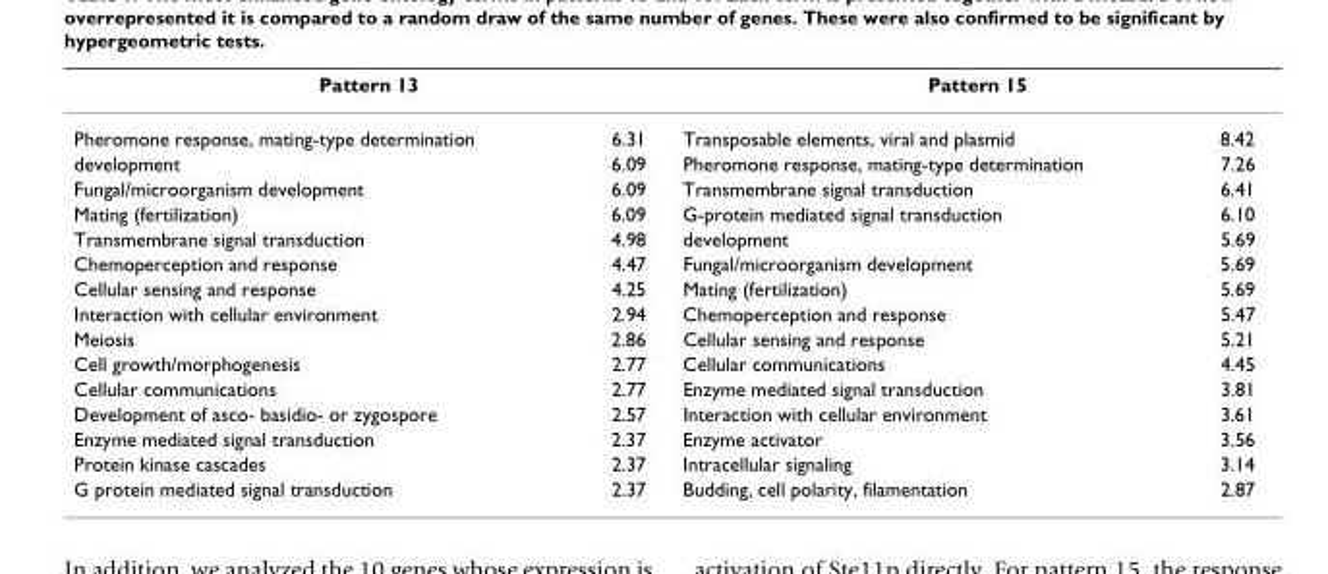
<table><thead><tr><td colspan="2">Pattern 13</td><td colspan="2">Pattern 15</td></tr><tr><td>Pheromone response, mating-type determination</td><td>6.31</td><td>Transposable elements, viral and plasmid</td><td>8.42</td></tr></thead><tbody><tr><td>development</td><td>6.09</td><td>Pheromone response, mating-type determination</td><td>7.26</td></tr><tr><td>Fungal/microorganism development</td><td>6.09</td><td>Transmembrane signal transduction</td><td>6.41</td></tr><tr><td>Mating (fertilization)</td><td>6.09</td><td>G-protein mediated signal transduction</td><td>6.10</td></tr><tr><td>Transmembrane signal transduction</td><td>4.98</td><td>development</td><td>5.69</td></tr><tr><td>Chemoperception and response</td><td>4.47</td><td>Fungal/microorganism development</td><td>5.69</td></tr><tr><td>Cellular sensing and response</td><td>4.25</td><td>Mating (fertilization)</td><td>5.69</td></tr><tr><td>Interaction with cellular environment</td><td>2.94</td><td>Chemoperception and response</td><td>5.47</td></tr><tr><td>Meiosis</td><td>2.86</td><td>Cellular sensing and response</td><td>5.21</td></tr><tr><td>Cell growth/morphogenesis</td><td>2.77</td><td>Cellular communications</td><td>4.45</td></tr><tr><td>Cellular communications</td><td>2.77</td><td>Enzyme mediated signal transduction</td><td>3.81</td></tr><tr><td>Development of asco- basidio- or zygospore</td><td>2.57</td><td>Interaction with cellular environment</td><td>3.61</td></tr><tr><td>Enzyme mediated signal transduction</td><td>2.37</td><td>Enzyme activator</td><td>3.56</td></tr><tr><td>Protein kinase cascades</td><td>2.37</td><td>Intracellular signaling</td><td>3.14</td></tr><tr><td>G protein mediated signal transduction</td><td>2.37</td><td>Budding, cell polarity, filamentation</td><td>2.87</td></tr></tbody></table>